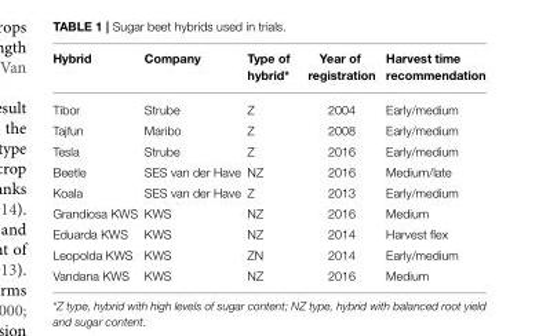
<table><thead><tr><td>Hybrid</td><td>Company</td><td>Type of hybrid*</td><td>Year of registration</td><td>Harvest time recommendation</td></tr></thead><tbody><tr><td>Tibor</td><td>Strube</td><td>Z</td><td>2004</td><td>Early/medium</td></tr><tr><td>Tajfun</td><td>Maribo</td><td>Z</td><td>2008</td><td>Early/medium</td></tr><tr><td>Tesla</td><td>Strube</td><td>Z</td><td>2016</td><td>Early/medium</td></tr><tr><td>Beetle</td><td>SES van der Have</td><td>NZ</td><td>2016</td><td>Medium/late</td></tr><tr><td>Koala</td><td>SES van der Have</td><td>Z</td><td>2013</td><td>Early/medium</td></tr><tr><td>Grandiosa KWS</td><td>KWS</td><td>NZ</td><td>2016</td><td>Medium</td></tr><tr><td>Eduarda KWS</td><td>KWS</td><td>NZ</td><td>2014</td><td>Harvest flex</td></tr><tr><td>Leopolda KWS</td><td>KWS</td><td>ZN</td><td>2014</td><td>Early/medium</td></tr><tr><td>Vandana KWS</td><td>KWS</td><td>NZ</td><td>2016</td><td>Medium</td></tr></tbody></table>